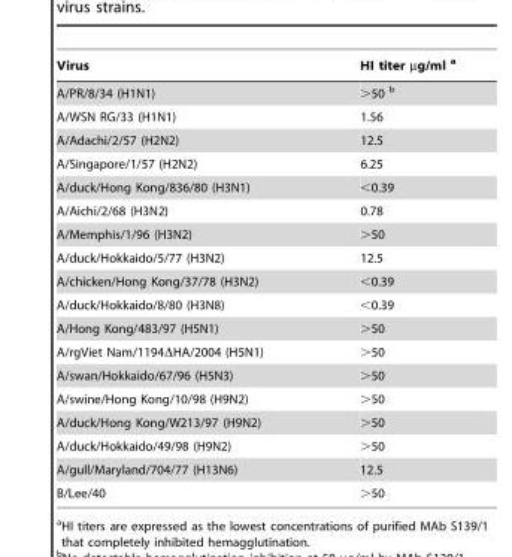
<table><thead><tr><td>Virus</td><td>HI titer µg/ml a</td></tr></thead><tbody><tr><td>A/PR/8/34 (H1N1)</td><td>&gt;50 b</td></tr><tr><td>A/WSN RG/33 (H1N1)</td><td>1.56</td></tr><tr><td>A/Adachi/2/57 (H2N2)</td><td>12.5</td></tr><tr><td>A/Singapore/1/57 (H2N2)</td><td>6.25</td></tr><tr><td>A/duck/Hong Kong/836/80 (H3N1)</td><td>&lt;0.39</td></tr><tr><td>A/Aichi/2/68 (H3N2)</td><td>0.78</td></tr><tr><td>A/Memphis/1/96 (H3N2)</td><td>&gt;50</td></tr><tr><td>A/duck/Hokkaido/5/77 (H3N2)</td><td>12.5</td></tr><tr><td>A/chicken/Hong Kong/37/78 (H3N2)</td><td>&lt;0.39</td></tr><tr><td>A/duck/Hokkaido/8/80 (H3N8)</td><td>&lt;0.39</td></tr><tr><td>A/Hong Kong/483/97 (H5N1)</td><td>&gt;50</td></tr><tr><td>A/rgViet Nam/1194ΔHA/2004 (H5N1)</td><td>&gt;50</td></tr><tr><td>A/swan/Hokkaido/67/96 (H5N3)</td><td>&gt;50</td></tr><tr><td>A/swine/Hong Kong/10/98 (H9N2)</td><td>&gt;50</td></tr><tr><td>A/duck/Hong Kong/W213/97 (H9N2)</td><td>&gt;50</td></tr><tr><td>A/duck/Hokkaido/49/98 (H9N2)</td><td>&gt;50</td></tr><tr><td>A/gull/Maryland/704/77 (H13N6)</td><td>12.5</td></tr><tr><td>B/Lee/40</td><td>&gt;50</td></tr></tbody></table>